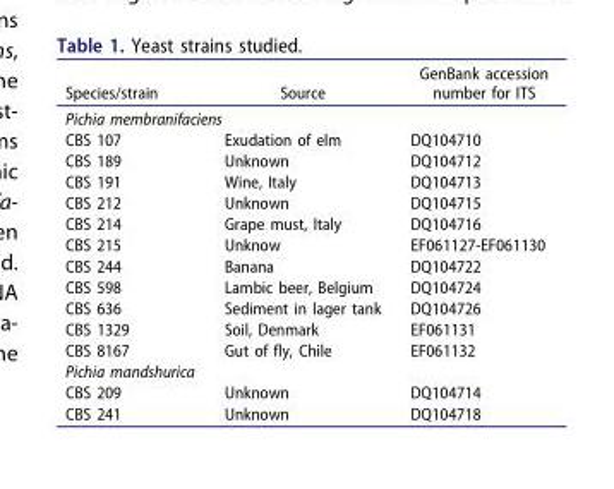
<table><thead><tr><td>Species/strain</td><td>Source</td><td>GenBank accession number for ITS</td></tr></thead><tbody><tr><td colspan="3">Pichia membranifaciens</td></tr><tr><td>CBS 107</td><td>Exudation of elm</td><td>DQ104710</td></tr><tr><td>CBS 189</td><td>Unknown</td><td>DQ104712</td></tr><tr><td>CBS 191</td><td>Wine, Italy</td><td>DQ104713</td></tr><tr><td>CBS 212</td><td>Unknown</td><td>DQ104715</td></tr><tr><td>CBS 214</td><td>Grape must, Italy</td><td>DQ104716</td></tr><tr><td>CBS 215</td><td>Unknow</td><td>EF061127-EF061130</td></tr><tr><td>CBS 244</td><td>Banana</td><td>DQ104722</td></tr><tr><td>CBS 598</td><td>Lambic beer, Belgium</td><td>DQ104724</td></tr><tr><td>CBS 636</td><td>Sediment in lager tank</td><td>DQ104726</td></tr><tr><td>CBS 1329</td><td>Soil, Denmark</td><td>EF061131</td></tr><tr><td>CBS 8167</td><td>Gut of fly, Chile</td><td>EF061132</td></tr><tr><td colspan="3">Pichia mandshurica</td></tr><tr><td>CBS 209</td><td>Unknown</td><td>DQ104714</td></tr><tr><td>CBS 241</td><td>Unknown</td><td>DQ104718</td></tr></tbody></table>